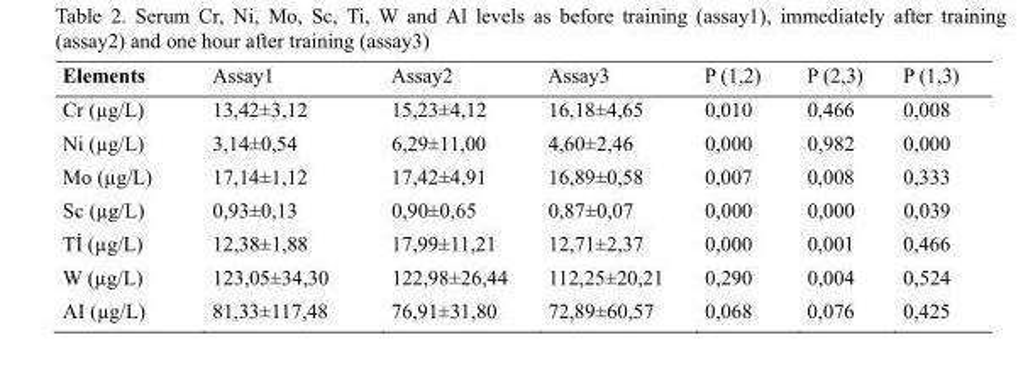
<table><thead><tr><td>Elements</td><td>Assay1</td><td>Assay2</td><td>Assay3</td><td>P (1,2)</td><td>P (2,3)</td><td>P (1,3)</td></tr></thead><tbody><tr><td>Cr (µg/L)</td><td>13,42±3,12</td><td>15,23±4,12</td><td>16,18±4,65</td><td>0,010</td><td>0,466</td><td>0,008</td></tr><tr><td>Ni (µg/L)</td><td>3,14±0,54</td><td>6,29±11,00</td><td>4,60±2,46</td><td>0,000</td><td>0,982</td><td>0,000</td></tr><tr><td>Mo (µg/L)</td><td>17,14±1,12</td><td>17,42±4,91</td><td>16,89±0,58</td><td>0,007</td><td>0,008</td><td>0,333</td></tr><tr><td>Sc (µg/L)</td><td>0,93±0,13</td><td>0,90±0,65</td><td>0,87±0,07</td><td>0,000</td><td>0,000</td><td>0,039</td></tr><tr><td>Tİ (µg/L)</td><td>12,38±1,88</td><td>17,99±11,21</td><td>12,71±2,37</td><td>0,000</td><td>0,001</td><td>0,466</td></tr><tr><td>W (µg/L)</td><td>123,05±34,30</td><td>122,98±26,44</td><td>112,25±20,21</td><td>0,290</td><td>0,004</td><td>0,524</td></tr><tr><td>AI (µg/L)</td><td>81,33±117,48</td><td>76,91±31,80</td><td>72,89±60,57</td><td>0,068</td><td>0,076</td><td>0,425</td></tr></tbody></table>